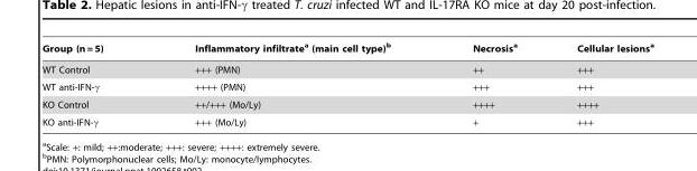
<table><thead><tr><td>Group (n = 5)</td><td>Inflammatory infiltrate<sup>a</sup> (main cell type)<sup>b</sup></td><td>Necrosis<sup>a</sup></td><td>Cellular lesions<sup>a</sup></td></tr></thead><tbody><tr><td>WT Control</td><td>+++ (PMN)</td><td>++</td><td>+++</td></tr><tr><td>WT anti-IFN-γ</td><td>++++ (PMN)</td><td>+++</td><td>+++</td></tr><tr><td>KO Control</td><td>++/+++ (Mo/Ly)</td><td>++++</td><td>++++</td></tr><tr><td>KO anti-IFN-γ</td><td>+++ (Mo/Ly)</td><td>+</td><td>+++</td></tr></tbody></table>